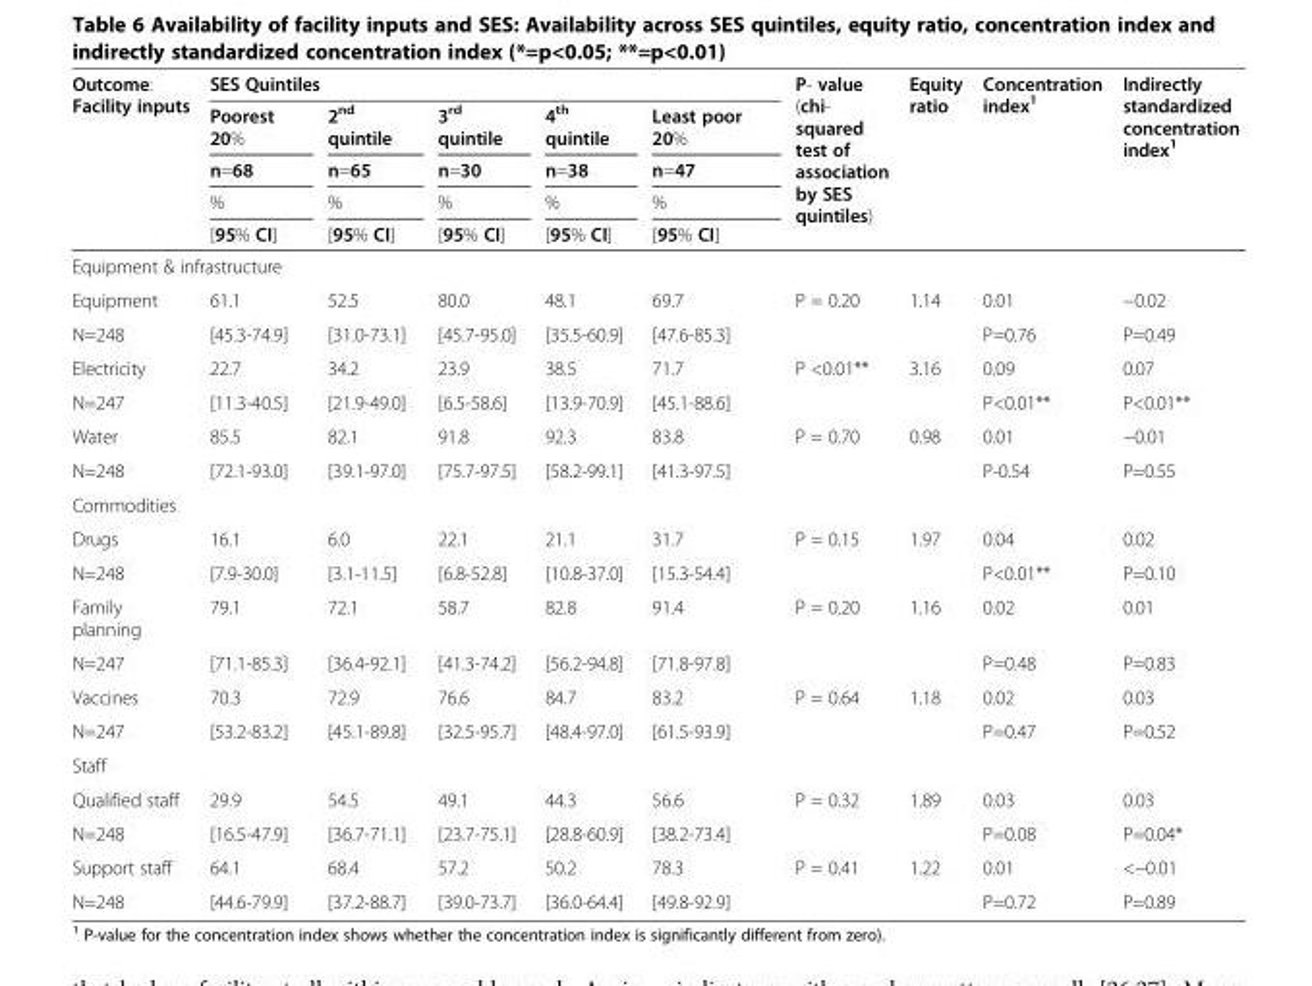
<table><thead><tr><td rowspan="5">Outcome: Facility inputs</td><td colspan="5">SES Quintiles</td><td rowspan="5">P- value (chi- squared test of association by SES quintiles)</td><td rowspan="5">Equity ratio</td><td rowspan="5">Concentration index<sup>1</sup></td><td rowspan="5">Indirectly standardized concentration index<sup>1</sup></td></tr><tr><td rowspan="4">Poorest 20% n=68 % [95% CI]</td><td rowspan="4">2<sup>nd</sup> quintile n=65 % [95% CI]</td><td rowspan="4">3<sup>rd</sup> quintile n=30 % [95% CI]</td><td rowspan="4">4<sup>th</sup> quintile n=38 % [95% CI]</td><td rowspan="4">Least poor 20% n=47 % [95% CI]</td></tr><tr></tr><tr></tr><tr></tr></thead><tbody><tr><td colspan="10">Equipment &amp; infrastructure</td></tr><tr><td>Equipment</td><td>61.1</td><td>52.5</td><td>80.0</td><td>48.1</td><td>69.7</td><td rowspan="2">P = 0.20</td><td rowspan="2">1.14</td><td>0.01</td><td>−0.02</td></tr><tr><td>N=248</td><td>[45.3-74.9]</td><td>[31.0-73.1]</td><td>[45.7-95.0]</td><td>[35.5-60.9]</td><td>[47.6-85.3]</td><td>P=0.76</td><td>P=0.49</td></tr><tr><td>Electricity</td><td>22.7</td><td>34.2</td><td>23.9</td><td>38.5</td><td>71.7</td><td rowspan="2">P &lt;0.01**</td><td rowspan="2">3.16</td><td>0.09</td><td>0.07</td></tr><tr><td>N=247</td><td>[11.3-40.5]</td><td>[21.9-49.0]</td><td>[6.5-58.6]</td><td>[13.9-70.9]</td><td>[45.1-88.6]</td><td>P&lt;0.01**</td><td>P&lt;0.01**</td></tr><tr><td>Water</td><td>85.5</td><td>82.1</td><td>91.8</td><td>92.3</td><td>83.8</td><td rowspan="2">P = 0.70</td><td rowspan="2">0.98</td><td>0.01</td><td>−0.01</td></tr><tr><td>N=248</td><td>[72.1-93.0]</td><td>[39.1-97.0]</td><td>[75.7-97.5]</td><td>[58.2-99.1]</td><td>[41.3-97.5]</td><td>P-0.54</td><td>P=0.55</td></tr><tr><td colspan="10">Commodities</td></tr><tr><td>Drugs</td><td>16.1</td><td>6.0</td><td>22.1</td><td>21.1</td><td>31.7</td><td rowspan="2">P = 0.15</td><td rowspan="2">1.97</td><td>0.04</td><td>0.02</td></tr><tr><td>N=248</td><td>[7.9-30.0]</td><td>[3.1-11.5]</td><td>[6.8-52.8]</td><td>[10.8-37.0]</td><td>[15.3-54.4]</td><td>P&lt;0.01**</td><td>P=0.10</td></tr><tr><td>Family planning</td><td>79.1</td><td>72.1</td><td>58.7</td><td>82.8</td><td>91.4</td><td rowspan="2">P = 0.20</td><td rowspan="2">1.16</td><td>0.02</td><td>0.01</td></tr><tr><td>N=247</td><td>[71.1-85.3]</td><td>[36.4-92.1]</td><td>[41.3-74.2]</td><td>[56.2-94.8]</td><td>[71.8-97.8]</td><td>P=0.48</td><td>P=0.83</td></tr><tr><td>Vaccines</td><td>70.3</td><td>72.9</td><td>76.6</td><td>84.7</td><td>83.2</td><td rowspan="2">P = 0.64</td><td rowspan="2">1.18</td><td>0.02</td><td>0.03</td></tr><tr><td>N=247</td><td>[53.2-83.2]</td><td>[45.1-89.8]</td><td>[32.5-95.7]</td><td>[48.4-97.0]</td><td>[61.5-93.9]</td><td>P=0.47</td><td>P=0.52</td></tr><tr><td colspan="10">Staff</td></tr><tr><td>Qualified staff</td><td>29.9</td><td>54.5</td><td>49.1</td><td>44.3</td><td>56.6</td><td rowspan="2">P = 0.32</td><td rowspan="2">1.89</td><td>0.03</td><td>0.03</td></tr><tr><td>N=248</td><td>[16.5-47.9]</td><td>[36.7-71.1]</td><td>[23.7-75.1]</td><td>[28.8-60.9]</td><td>[38.2-73.4]</td><td>P=0.08</td><td>P=0.04*</td></tr><tr><td>Support staff</td><td>64.1</td><td>68.4</td><td>57.2</td><td>50.2</td><td>78.3</td><td rowspan="2">P = 0.41</td><td rowspan="2">1.22</td><td>0.01</td><td>&lt;−0.01</td></tr><tr><td>N=248</td><td>[44.6-79.9]</td><td>[37.2-88.7]</td><td>[39.0-73.7]</td><td>[36.0-64.4]</td><td>[49.8-92.9]</td><td>P=0.72</td><td>P=0.89</td></tr></tbody></table>